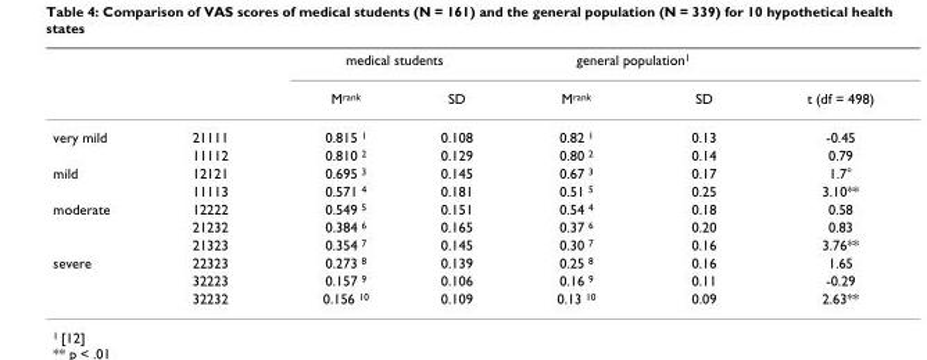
<table><thead><tr><td rowspan="2"></td><td rowspan="2"></td><td colspan="2">medical students</td><td colspan="2">general population<sup>1</sup></td><td rowspan="2">t (df = 498)</td></tr><tr><td>M<sup>rank</sup></td><td>SD</td><td>M<sup>rank</sup></td><td>SD</td></tr></thead><tbody><tr><td rowspan="2">very mild</td><td>21111</td><td>0.815 <sup>1</sup></td><td>0.108</td><td>0.82 <sup>1</sup></td><td>0.13</td><td>-0.45</td></tr><tr><td>11112</td><td>0.810 <sup>2</sup></td><td>0.129</td><td>0.80 <sup>2</sup></td><td>0.14</td><td>0.79</td></tr><tr><td rowspan="2">mild</td><td>12121</td><td>0.695 <sup>3</sup></td><td>0.145</td><td>0.67 <sup>3</sup></td><td>0.17</td><td>1.7°</td></tr><tr><td>11113</td><td>0.571 <sup>4</sup></td><td>0.181</td><td>0.51 <sup>5</sup></td><td>0.25</td><td>3.10**</td></tr><tr><td rowspan="3">moderate</td><td>12222</td><td>0.549 <sup>5</sup></td><td>0.151</td><td>0.54 <sup>4</sup></td><td>0.18</td><td>0.58</td></tr><tr><td>21232</td><td>0.384 <sup>6</sup></td><td>0.165</td><td>0.37 <sup>6</sup></td><td>0.20</td><td>0.83</td></tr><tr><td>21323</td><td>0.354 <sup>7</sup></td><td>0.145</td><td>0.30 <sup>7</sup></td><td>0.16</td><td>3.76**</td></tr><tr><td rowspan="3">severe</td><td>22323</td><td>0.273 <sup>8</sup></td><td>0.139</td><td>0.25 <sup>8</sup></td><td>0.16</td><td>1.65</td></tr><tr><td>32223</td><td>0.157 <sup>9</sup></td><td>0.106</td><td>0.16 <sup>9</sup></td><td>0.11</td><td>-0.29</td></tr><tr><td>32232</td><td>0.156 <sup>10</sup></td><td>0.109</td><td>0.13 <sup>10</sup></td><td>0.09</td><td>2.63**</td></tr></tbody></table>